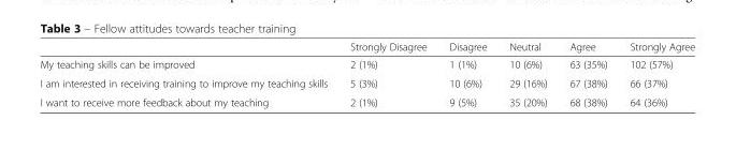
<table><thead><tr><td></td><td>Strongly Disagree</td><td>Disagree</td><td>Neutral</td><td>Agree</td><td>Strongly Agree</td></tr></thead><tbody><tr><td>My teaching skills can be improved</td><td>2 (1%)</td><td>1 (1%)</td><td>10 (6%)</td><td>63 (35%)</td><td>102 (57%)</td></tr><tr><td>I am interested in receiving training to improve my teaching skills</td><td>5 (3%)</td><td>10 (6%)</td><td>29 (16%)</td><td>67 (38%)</td><td>66 (37%)</td></tr><tr><td>I want to receive more feedback about my teaching</td><td>2 (1%)</td><td>9 (5%)</td><td>35 (20%)</td><td>68 (38%)</td><td>64 (36%)</td></tr></tbody></table>